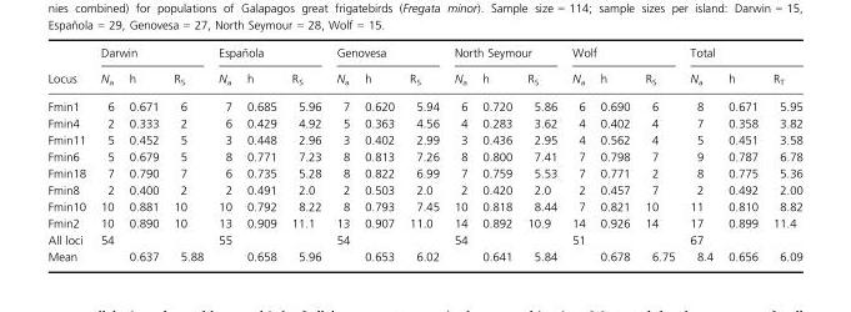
<table><thead><tr><td rowspan="2">Locus</td><td colspan="3">Darwin</td><td colspan="3">Espan˜ ola</td><td colspan="3">Genovesa</td><td colspan="3">North Seymour</td><td colspan="3">Wolf</td><td colspan="3">Total</td></tr><tr><td>N<sub>a</sub></td><td>h</td><td>R<sub>S</sub></td><td>N<sub>a</sub></td><td>h</td><td>R<sub>S</sub></td><td>N<sub>a</sub></td><td>h</td><td>R<sub>S</sub></td><td>N<sub>a</sub></td><td>h</td><td>R<sub>S</sub></td><td>N<sub>a</sub></td><td>h</td><td>R<sub>S</sub></td><td>N<sub>a</sub></td><td>h</td><td>R<sub>T</sub></td></tr></thead><tbody><tr><td>Fmin1</td><td>6</td><td>0.671</td><td>6</td><td>7</td><td>0.685</td><td>5.96</td><td>7</td><td>0.620</td><td>5.94</td><td>6</td><td>0.720</td><td>5.86</td><td>6</td><td>0.690</td><td>6</td><td>8</td><td>0.671</td><td>5.95</td></tr><tr><td>Fmin4</td><td>2</td><td>0.333</td><td>2</td><td>6</td><td>0.429</td><td>4.92</td><td>5</td><td>0.363</td><td>4.56</td><td>4</td><td>0.283</td><td>3.62</td><td>4</td><td>0.402</td><td>4</td><td>7</td><td>0.358</td><td>3.82</td></tr><tr><td>Fmin11</td><td>5</td><td>0.452</td><td>5</td><td>3</td><td>0.448</td><td>2.96</td><td>3</td><td>0.402</td><td>2.99</td><td>3</td><td>0.436</td><td>2.95</td><td>4</td><td>0.562</td><td>4</td><td>5</td><td>0.451</td><td>3.58</td></tr><tr><td>Fmin6</td><td>5</td><td>0.679</td><td>5</td><td>8</td><td>0.771</td><td>7.23</td><td>8</td><td>0.813</td><td>7.26</td><td>8</td><td>0.800</td><td>7.41</td><td>7</td><td>0.798</td><td>7</td><td>9</td><td>0.787</td><td>6.78</td></tr><tr><td>Fmin18</td><td>7</td><td>0.790</td><td>7</td><td>6</td><td>0.735</td><td>5.28</td><td>8</td><td>0.822</td><td>6.99</td><td>7</td><td>0.759</td><td>5.53</td><td>7</td><td>0.771</td><td>2</td><td>8</td><td>0.775</td><td>5.36</td></tr><tr><td>Fmin8</td><td>2</td><td>0.400</td><td>2</td><td>2</td><td>0.491</td><td>2.0</td><td>2</td><td>0.503</td><td>2.0</td><td>2</td><td>0.420</td><td>2.0</td><td>2</td><td>0.457</td><td>7</td><td>2</td><td>0.492</td><td>2.00</td></tr><tr><td>Fmin10</td><td>10</td><td>0.881</td><td>10</td><td>10</td><td>0.792</td><td>8.22</td><td>8</td><td>0.793</td><td>7.45</td><td>10</td><td>0.818</td><td>8.44</td><td>7</td><td>0.821</td><td>10</td><td>11</td><td>0.810</td><td>8.82</td></tr><tr><td>Fmin2</td><td>10</td><td>0.890</td><td>10</td><td>13</td><td>0.909</td><td>11.1</td><td>13</td><td>0.907</td><td>11.0</td><td>14</td><td>0.892</td><td>10.9</td><td>14</td><td>0.926</td><td>14</td><td>17</td><td>0.899</td><td>11.4</td></tr><tr><td>All loci</td><td>54</td><td></td><td></td><td>55</td><td></td><td></td><td>54</td><td></td><td></td><td>54</td><td></td><td></td><td>51</td><td></td><td></td><td>67</td><td></td><td></td></tr><tr><td>Mean</td><td></td><td>0.637</td><td>5.88</td><td></td><td>0.658</td><td>5.96</td><td></td><td>0.653</td><td>6.02</td><td></td><td>0.641</td><td>5.84</td><td></td><td>0.678</td><td>6.75</td><td>8.4</td><td>0.656</td><td>6.09</td></tr></tbody></table>